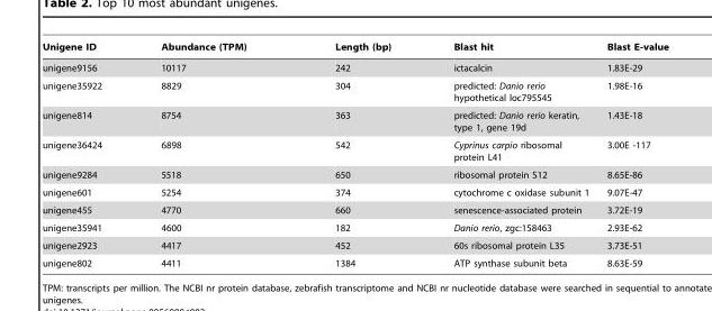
<table><thead><tr><td>Unigene ID</td><td>Abundance (TPM)</td><td>Length (bp)</td><td>Blast hit</td><td>Blast E-value</td></tr></thead><tbody><tr><td>unigene9156</td><td>10117</td><td>242</td><td>ictacalcin</td><td>1.83E-29</td></tr><tr><td>unigene35922</td><td>8829</td><td>304</td><td>predicted: Danio rerio hypothetical loc795545</td><td>1.98E-16</td></tr><tr><td>unigene814</td><td>8754</td><td>363</td><td>predicted: Danio rerio keratin, type 1, gene 19d</td><td>1.43E-18</td></tr><tr><td>unigene36424</td><td>6898</td><td>542</td><td>Cyprinus carpio ribosomal protein L41</td><td>3.00E -117</td></tr><tr><td>unigene9284</td><td>5518</td><td>650</td><td>ribosomal protein S12</td><td>8.65E-86</td></tr><tr><td>unigene601</td><td>5254</td><td>374</td><td>cytochrome c oxidase subunit 1</td><td>9.07E-47</td></tr><tr><td>unigene455</td><td>4770</td><td>660</td><td>senescence-associated protein</td><td>3.72E-19</td></tr><tr><td>unigene35941</td><td>4600</td><td>182</td><td>Danio rerio, zgc:158463</td><td>2.93E-62</td></tr><tr><td>unigene2923</td><td>4417</td><td>452</td><td>60s ribosomal protein L35</td><td>3.73E-51</td></tr><tr><td>unigene802</td><td>4411</td><td>1384</td><td>ATP synthase subunit beta</td><td>8.63E-59</td></tr></tbody></table>